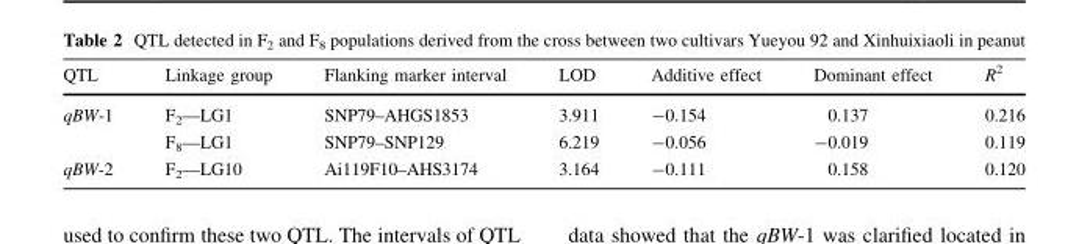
<table><thead><tr><td>QTL</td><td>Linkage group</td><td>Flanking marker interval</td><td>LOD</td><td>Additive effect</td><td>Dominant effect</td><td>R<sup>2</sup></td></tr></thead><tbody><tr><td rowspan="2">qBW-1</td><td>F<sub>2</sub>—LG1</td><td>SNP79–AHGS1853</td><td>3.911</td><td>-0.154</td><td>0.137</td><td>0.216</td></tr><tr><td>F<sub>8</sub>—LG1</td><td>SNP79–SNP129</td><td>6.219</td><td>-0.056</td><td>-0.019</td><td>0.119</td></tr><tr><td>qBW-2</td><td>F<sub>2</sub>—LG10</td><td>Ai119F10–AHS3174</td><td>3.164</td><td>-0.111</td><td>0.158</td><td>0.120</td></tr></tbody></table>